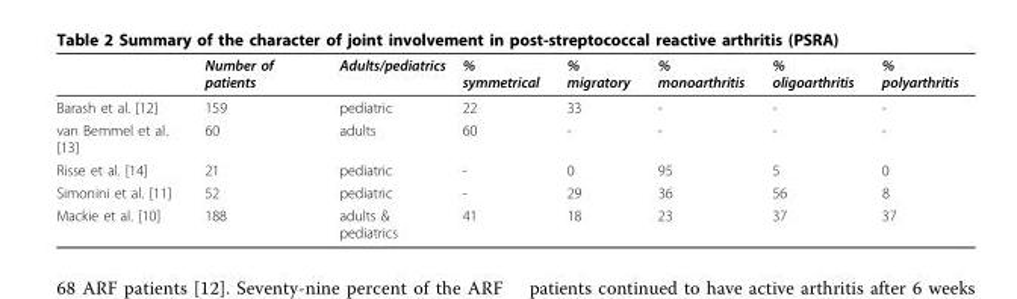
<table><thead><tr><td></td><td>Number of patients</td><td>Adults/pediatrics</td><td>% symmetrical</td><td>% migratory</td><td>% monoarthritis</td><td>% oligoarthritis</td><td>% polyarthritis</td></tr></thead><tbody><tr><td>Barash et al. [12]</td><td>159</td><td>pediatric</td><td>22</td><td>33</td><td>-</td><td>-</td><td>-</td></tr><tr><td>van Bemmel et al. [13]</td><td>60</td><td>adults</td><td>60</td><td>-</td><td>-</td><td>-</td><td>-</td></tr><tr><td>Risse et al. [14]</td><td>21</td><td>pediatric</td><td>-</td><td>0</td><td>95</td><td>5</td><td>0</td></tr><tr><td>Simonini et al. [11]</td><td>52</td><td>pediatric</td><td>-</td><td>29</td><td>36</td><td>56</td><td>8</td></tr><tr><td>Mackie et al. [10]</td><td>188</td><td>adults &amp; pediatrics</td><td>41</td><td>18</td><td>23</td><td>37</td><td>37</td></tr></tbody></table>